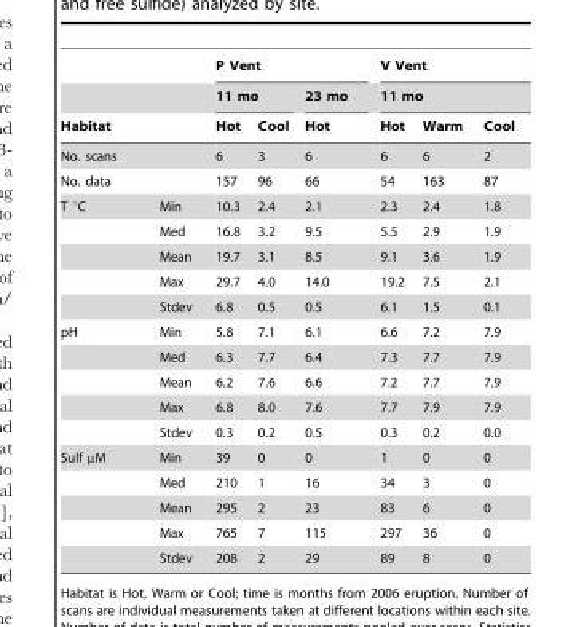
<table><thead><tr><td rowspan="2"></td><td rowspan="2"></td><td colspan="3">P Vent</td><td rowspan="2" colspan="3">V Vent 11 mo</td></tr><tr><td colspan="2">11 mo</td><td rowspan="2">23 mo Hot</td></tr><tr><td colspan="2">Habitat</td><td>Hot</td><td>Cool</td><td>Hot</td><td>Warm</td><td>Cool</td></tr></thead><tbody><tr><td colspan="2">No. scans</td><td>6</td><td>3</td><td>6</td><td>6</td><td>6</td><td>2</td></tr><tr><td colspan="2">No. data</td><td>157</td><td>96</td><td>66</td><td>54</td><td>163</td><td>87</td></tr><tr><td rowspan="5">T °C</td><td>Min</td><td>10.3</td><td>2.4</td><td>2.1</td><td>2.3</td><td>2.4</td><td>1.8</td></tr><tr><td>Med</td><td>16.8</td><td>3.2</td><td>9.5</td><td>5.5</td><td>2.9</td><td>1.9</td></tr><tr><td>Mean</td><td>19.7</td><td>3.1</td><td>8.5</td><td>9.1</td><td>3.6</td><td>1.9</td></tr><tr><td>Max</td><td>29.7</td><td>4.0</td><td>14.0</td><td>19.2</td><td>7.5</td><td>2.1</td></tr><tr><td>Stdev</td><td>6.8</td><td>0.5</td><td>0.5</td><td>6.1</td><td>1.5</td><td>0.1</td></tr><tr><td rowspan="5">pH</td><td>Min</td><td>5.8</td><td>7.1</td><td>6.1</td><td>6.6</td><td>7.2</td><td>7.9</td></tr><tr><td>Med</td><td>6.3</td><td>7.7</td><td>6.4</td><td>7.3</td><td>7.7</td><td>7.9</td></tr><tr><td>Mean</td><td>6.2</td><td>7.6</td><td>6.6</td><td>7.2</td><td>7.7</td><td>7.9</td></tr><tr><td>Max</td><td>6.8</td><td>8.0</td><td>7.6</td><td>7.7</td><td>7.9</td><td>7.9</td></tr><tr><td>Stdev</td><td>0.3</td><td>0.2</td><td>0.5</td><td>0.3</td><td>0.2</td><td>0.0</td></tr><tr><td rowspan="5">Sulf µM</td><td>Min</td><td>39</td><td>0</td><td>0</td><td>1</td><td>0</td><td>0</td></tr><tr><td>Med</td><td>210</td><td>1</td><td>16</td><td>34</td><td>3</td><td>0</td></tr><tr><td>Mean</td><td>295</td><td>2</td><td>23</td><td>83</td><td>6</td><td>0</td></tr><tr><td>Max</td><td>765</td><td>7</td><td>115</td><td>297</td><td>36</td><td>0</td></tr><tr><td>Stdev</td><td>208</td><td>2</td><td>29</td><td>89</td><td>8</td><td>0</td></tr></tbody></table>